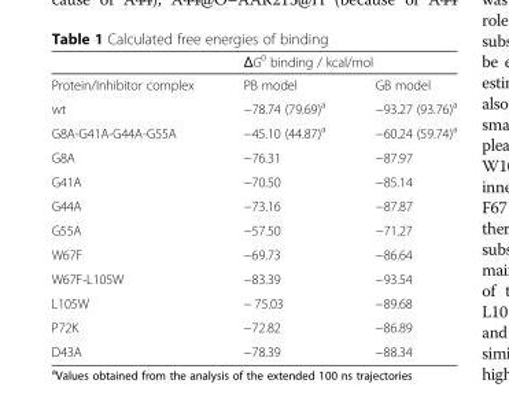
<table><thead><tr><td rowspan="2">Protein/Inhibitor complex</td><td colspan="2">ΔG<sup>0</sup> binding / kcal/mol</td></tr><tr><td>PB model</td><td>GB model</td></tr></thead><tbody><tr><td>wt</td><td>−78.74 (79.69)<sup>a</sup></td><td>−93.27 (93.76)<sup>a</sup></td></tr><tr><td>G8A-G41A-G44A-G55A</td><td>−45.10 (44.87)<sup>a</sup></td><td>−60.24 (59.74)<sup>a</sup></td></tr><tr><td>G8A</td><td>−76.31</td><td>−87.97</td></tr><tr><td>G41A</td><td>−70.50</td><td>−85.14</td></tr><tr><td>G44A</td><td>−73.16</td><td>−87.87</td></tr><tr><td>G55A</td><td>−57.50</td><td>−71.27</td></tr><tr><td>W67F</td><td>−69.73</td><td>−86.64</td></tr><tr><td>W67F-L105W</td><td>−83.39</td><td>−93.54</td></tr><tr><td>L105W</td><td>− 75.03</td><td>−89.68</td></tr><tr><td>P72K</td><td>−72.82</td><td>−86.89</td></tr><tr><td>D43A</td><td>−78.39</td><td>−88.34</td></tr></tbody></table>